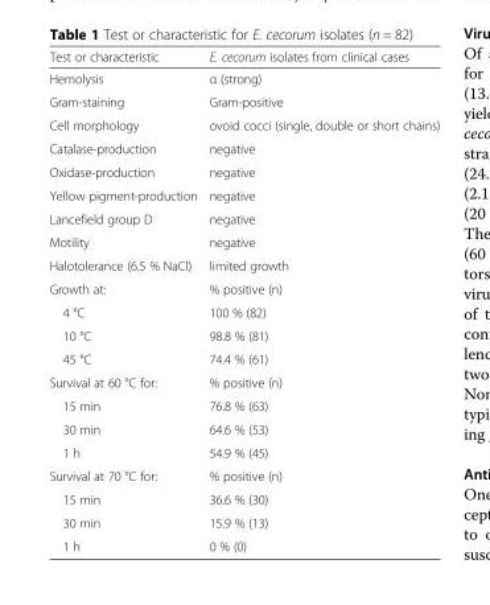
<table><thead><tr><td>Test or characteristic</td><td>E. cecorum isolates from clinical cases</td></tr></thead><tbody><tr><td>Hemolysis</td><td>α (strong)</td></tr><tr><td>Gram-staining</td><td>Gram-positive</td></tr><tr><td>Cell morphology</td><td>ovoid cocci (single, double or short chains)</td></tr><tr><td>Catalase-production</td><td>negative</td></tr><tr><td>Oxidase-production</td><td>negative</td></tr><tr><td>Yellow pigment-production</td><td>negative</td></tr><tr><td>Lancefield group D</td><td>negative</td></tr><tr><td>Motility</td><td>negative</td></tr><tr><td>Halotolerance (6.5 % NaCl)</td><td>limited growth</td></tr><tr><td>Growth at:</td><td>% positive (n)</td></tr><tr><td>4 °C</td><td>100 % (82)</td></tr><tr><td>10 °C</td><td>98.8 % (81)</td></tr><tr><td>45 °C</td><td>74.4 % (61)</td></tr><tr><td>Survival at 60 °C for:</td><td>% positive (n)</td></tr><tr><td>15 min</td><td>76.8 % (63)</td></tr><tr><td>30 min</td><td>64.6 % (53)</td></tr><tr><td>1 h</td><td>54.9 % (45)</td></tr><tr><td>Survival at 70 °C for:</td><td>% positive (n)</td></tr><tr><td>15 min</td><td>36.6 % (30)</td></tr><tr><td>30 min</td><td>15.9 % (13)</td></tr><tr><td>1 h</td><td>0 % (0)</td></tr></tbody></table>